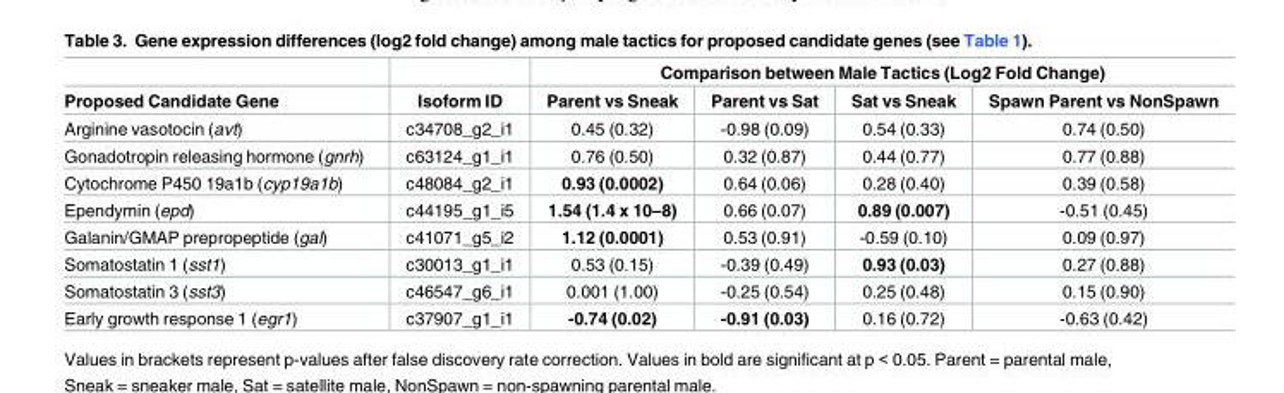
<table><thead><tr><td rowspan="2">Proposed Candidate Gene</td><td rowspan="2">Isoform ID</td><td colspan="4">Comparison between Male Tactics (Log2 Fold Change)</td></tr><tr><td>Parent vs Sneak</td><td>Parent vs Sat</td><td>Sat vs Sneak</td><td>Spawn Parent vs NonSpawn</td></tr></thead><tbody><tr><td>Arginine vasotocin (avt)</td><td>c34708_g2_i1</td><td>0.45 (0.32)</td><td>-0.98 (0.09)</td><td>0.54 (0.33)</td><td>0.74 (0.50)</td></tr><tr><td>Gonadotropin releasing hormone (gnrh)</td><td>c63124_g1_i1</td><td>0.76 (0.50)</td><td>0.32 (0.87)</td><td>0.44 (0.77)</td><td>0.77 (0.88)</td></tr><tr><td>Cytochrome P450 19a1b (cyp19a1b)</td><td>c48084_g2_i1</td><td>0.93 (0.0002)</td><td>0.64 (0.06)</td><td>0.28 (0.40)</td><td>0.39 (0.58)</td></tr><tr><td>Ependymin (epd)</td><td>c44195_g1_i5</td><td>1.54 (1.4 x 10–8)</td><td>0.66 (0.07)</td><td>0.89 (0.007)</td><td>-0.51 (0.45)</td></tr><tr><td>Galanin/GMAP prepropeptide (gal)</td><td>c41071_g5_i2</td><td>1.12 (0.0001)</td><td>0.53 (0.91)</td><td>-0.59 (0.10)</td><td>0.09 (0.97)</td></tr><tr><td>Somatostatin 1 (sst1)</td><td>c30013_g1_i1</td><td>0.53 (0.15)</td><td>-0.39 (0.49)</td><td>0.93 (0.03)</td><td>0.27 (0.88)</td></tr><tr><td>Somatostatin 3 (sst3)</td><td>c46547_g6_i1</td><td>0.001 (1.00)</td><td>-0.25 (0.54)</td><td>0.25 (0.48)</td><td>0.15 (0.90)</td></tr><tr><td>Early growth response 1 (egr1)</td><td>c37907_g1_i1</td><td>-0.74 (0.02)</td><td>-0.91 (0.03)</td><td>0.16 (0.72)</td><td>-0.63 (0.42)</td></tr></tbody></table>